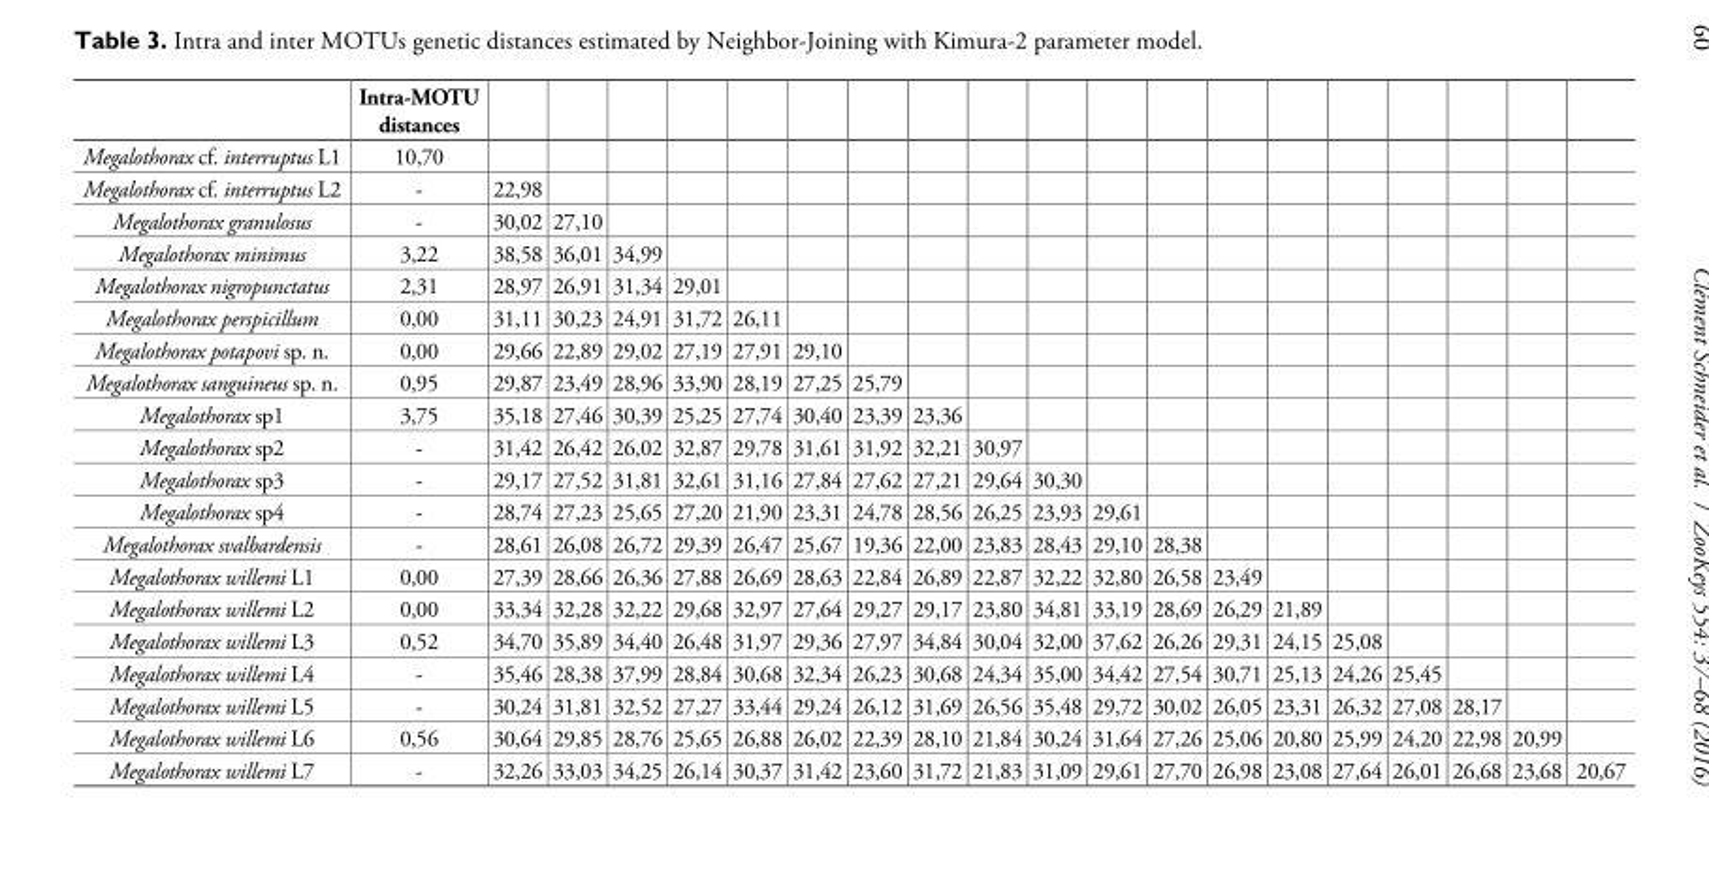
<table><thead><tr><td></td><td>Intra-MOTU distances</td><td></td><td></td><td></td><td></td><td></td><td></td><td></td><td></td><td></td><td></td><td></td><td></td><td></td><td></td><td></td><td></td><td></td><td></td><td></td></tr></thead><tbody><tr><td>Megalothorax cf. interruptus L1</td><td>10,70</td><td></td><td></td><td></td><td></td><td></td><td></td><td></td><td></td><td></td><td></td><td></td><td></td><td></td><td></td><td></td><td></td><td></td><td></td><td></td></tr><tr><td>Megalothorax cf. interruptus L2</td><td>-</td><td>22,98</td><td></td><td></td><td></td><td></td><td></td><td></td><td></td><td></td><td></td><td></td><td></td><td></td><td></td><td></td><td></td><td></td><td></td><td></td></tr><tr><td>Megalothorax granulosus</td><td>-</td><td>30,02</td><td>27,10</td><td></td><td></td><td></td><td></td><td></td><td></td><td></td><td></td><td></td><td></td><td></td><td></td><td></td><td></td><td></td><td></td><td></td></tr><tr><td>Megalothorax minimus</td><td>3,22</td><td>38,58</td><td>36,01</td><td>34,99</td><td></td><td></td><td></td><td></td><td></td><td></td><td></td><td></td><td></td><td></td><td></td><td></td><td></td><td></td><td></td><td></td></tr><tr><td>Megalothorax nigropunctatus</td><td>2,31</td><td>28,97</td><td>26,91</td><td>31,34</td><td>29,01</td><td></td><td></td><td></td><td></td><td></td><td></td><td></td><td></td><td></td><td></td><td></td><td></td><td></td><td></td><td></td></tr><tr><td>Megalothorax perspicillum</td><td>0,00</td><td>31,11</td><td>30,23</td><td>24,91</td><td>31,72</td><td>26,11</td><td></td><td></td><td></td><td></td><td></td><td></td><td></td><td></td><td></td><td></td><td></td><td></td><td></td><td></td></tr><tr><td>Megalothorax potapovi sp. n.</td><td>0,00</td><td>29,66</td><td>22,89</td><td>29,02</td><td>27,19</td><td>27,91</td><td>29,10</td><td></td><td></td><td></td><td></td><td></td><td></td><td></td><td></td><td></td><td></td><td></td><td></td><td></td></tr><tr><td>Megalothorax sanguineus sp. n.</td><td>0,95</td><td>29,87</td><td>23,49</td><td>28,96</td><td>33,90</td><td>28,19</td><td>27,25</td><td>25,79</td><td></td><td></td><td></td><td></td><td></td><td></td><td></td><td></td><td></td><td></td><td></td><td></td></tr><tr><td>Megalothorax sp1</td><td>3,75</td><td>35,18</td><td>27,46</td><td>30,39</td><td>25,25</td><td>27,74</td><td>30,40</td><td>23,39</td><td>23,36</td><td></td><td></td><td></td><td></td><td></td><td></td><td></td><td></td><td></td><td></td><td></td></tr><tr><td>Megalothorax sp2</td><td>-</td><td>31,42</td><td>26,42</td><td>26,02</td><td>32,87</td><td>29,78</td><td>31,61</td><td>31,92</td><td>32,21</td><td>30,97</td><td></td><td></td><td></td><td></td><td></td><td></td><td></td><td></td><td></td><td></td></tr><tr><td>Megalothorax sp3</td><td>-</td><td>29,17</td><td>27,52</td><td>31,81</td><td>32,61</td><td>31,16</td><td>27,84</td><td>27,62</td><td>27,21</td><td>29,64</td><td>30,30</td><td></td><td></td><td></td><td></td><td></td><td></td><td></td><td></td><td></td></tr><tr><td>Megalothorax sp4</td><td>-</td><td>28,74</td><td>27,23</td><td>25,65</td><td>27,20</td><td>21,90</td><td>23,31</td><td>24,78</td><td>28,56</td><td>26,25</td><td>23,93</td><td>29,61</td><td></td><td></td><td></td><td></td><td></td><td></td><td></td><td></td></tr><tr><td>Megalothorax svalbardensis</td><td>-</td><td>28,61</td><td>26,08</td><td>26,72</td><td>29,39</td><td>26,47</td><td>25,67</td><td>19,36</td><td>22,00</td><td>23,83</td><td>28,43</td><td>29,10</td><td>28,38</td><td></td><td></td><td></td><td></td><td></td><td></td><td></td></tr><tr><td>Megalothorax willemi L1</td><td>0,00</td><td>27,39</td><td>28,66</td><td>26,36</td><td>27,88</td><td>26,69</td><td>28,63</td><td>22,84</td><td>26,89</td><td>22,87</td><td>32,22</td><td>32,80</td><td>26,58</td><td>23,49</td><td></td><td></td><td></td><td></td><td></td><td></td></tr><tr><td>Megalothorax willemi L2</td><td>0,00</td><td>33,34</td><td>32,28</td><td>32,22</td><td>29,68</td><td>32,97</td><td>27,64</td><td>29,27</td><td>29,17</td><td>23,80</td><td>34,81</td><td>33,19</td><td>28,69</td><td>26,29</td><td>21,89</td><td></td><td></td><td></td><td></td><td></td></tr><tr><td>Megalothorax willemi L3</td><td>0,52</td><td>34,70</td><td>35,89</td><td>34,40</td><td>26,48</td><td>31,97</td><td>29,36</td><td>27,97</td><td>34,84</td><td>30,04</td><td>32,00</td><td>37,62</td><td>26,26</td><td>29,31</td><td>24,15</td><td>25,08</td><td></td><td></td><td></td><td></td></tr><tr><td>Megalothorax willemi L4</td><td>-</td><td>35,46</td><td>28,38</td><td>37,99</td><td>28,84</td><td>30,68</td><td>32,34</td><td>26,23</td><td>30,68</td><td>24,34</td><td>35,00</td><td>34,42</td><td>27,54</td><td>30,71</td><td>25,13</td><td>24,26</td><td>25,45</td><td></td><td></td><td></td></tr><tr><td>Megalothorax willemi L5</td><td>-</td><td>30,24</td><td>31,81</td><td>32,52</td><td>27,27</td><td>33,44</td><td>29,24</td><td>26,12</td><td>31,69</td><td>26,56</td><td>35,48</td><td>29,72</td><td>30,02</td><td>26,05</td><td>23,31</td><td>26,32</td><td>27,08</td><td>28,17</td><td></td><td></td></tr><tr><td>Megalothorax willemi L6</td><td>0,56</td><td>30,64</td><td>29,85</td><td>28,76</td><td>25,65</td><td>26,88</td><td>26,02</td><td>22,39</td><td>28,10</td><td>21,84</td><td>30,24</td><td>31,64</td><td>27,26</td><td>25,06</td><td>20,80</td><td>25,99</td><td>24,20</td><td>22,98</td><td>20,99</td><td></td></tr><tr><td>Megalothorax willemi L7</td><td>-</td><td>32,26</td><td>33,03</td><td>34,25</td><td>26,14</td><td>30,37</td><td>31,42</td><td>23,60</td><td>31,72</td><td>21,83</td><td>31,09</td><td>29,61</td><td>27,70</td><td>26,98</td><td>23,08</td><td>27,64</td><td>26,01</td><td>26,68</td><td>23,68</td><td>20,67</td></tr></tbody></table>